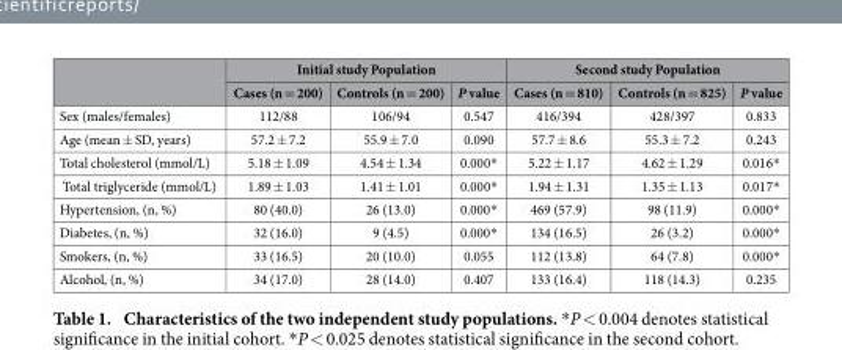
<table><thead><tr><td rowspan="2"></td><td colspan="3">Initial study Population</td><td colspan="3">Second study Population</td></tr><tr><td>Cases (n = 200)</td><td>Controls (n = 200)</td><td>P value</td><td>Cases (n = 810)</td><td>Controls (n = 825)</td><td>P value</td></tr></thead><tbody><tr><td>Sex (males/females)</td><td>112/88</td><td>106/94</td><td>0.547</td><td>416/394</td><td>428/397</td><td>0.833</td></tr><tr><td>Age (mean ± SD, years)</td><td>57.2 ± 7.2</td><td>55.9 ± 7.0</td><td>0.090</td><td>57.7 ± 8.6</td><td>55.3 ± 7.2</td><td>0.243</td></tr><tr><td>Total cholesterol (mmol/L)</td><td>5.18 ± 1.09</td><td>4.54 ± 1.34</td><td>0.000*</td><td>5.22 ± 1.17</td><td>4.62 ± 1.29</td><td>0.016*</td></tr><tr><td>Total triglyceride (mmol/L)</td><td>1.89 ± 1.03</td><td>1.41 ± 1.01</td><td>0.000*</td><td>1.94 ± 1.31</td><td>1.35 ± 1.13</td><td>0.017*</td></tr><tr><td>Hypertension, (n, %)</td><td>80 (40.0)</td><td>26 (13.0)</td><td>0.000*</td><td>469 (57.9)</td><td>98 (11.9)</td><td>0.000*</td></tr><tr><td>Diabetes, (n, %)</td><td>32 (16.0)</td><td>9 (4.5)</td><td>0.000*</td><td>134 (16.5)</td><td>26 (3.2)</td><td>0.000*</td></tr><tr><td>Smokers, (n, %)</td><td>33 (16.5)</td><td>20 (10.0)</td><td>0.055</td><td>112 (13.8)</td><td>64 (7.8)</td><td>0.000*</td></tr><tr><td>Alcohol, (n, %)</td><td>34 (17.0)</td><td>28 (14.0)</td><td>0.407</td><td>133 (16.4)</td><td>118 (14.3)</td><td>0.235</td></tr></tbody></table>